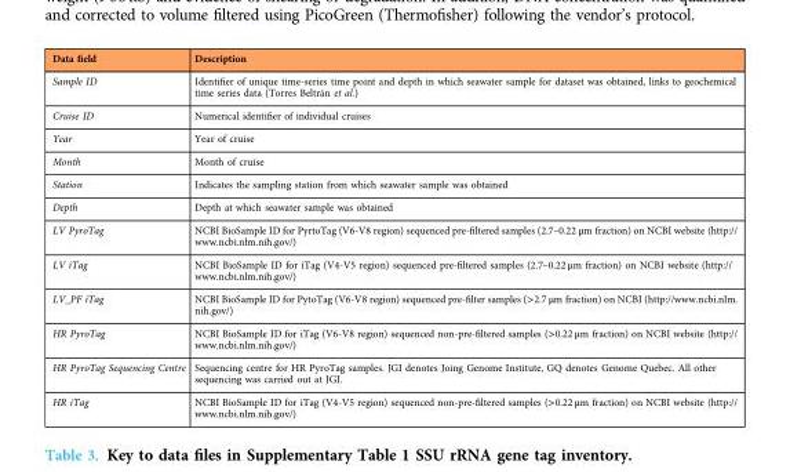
<table><thead><tr><td>Data field</td><td>Description</td></tr></thead><tbody><tr><td>Sample ID</td><td>Identifier of unique time-series time point and depth in which seawater sample for dataset was obtained, links to geochemical time series data (Torres Beltrán et al.)</td></tr><tr><td>Cruise ID</td><td>Numerical identifier of individual cruises</td></tr><tr><td>Year</td><td>Year of cruise</td></tr><tr><td>Month</td><td>Month of cruise</td></tr><tr><td>Station</td><td>Indicates the sampling station from which seawater sample was obtained</td></tr><tr><td>Depth</td><td>Depth at which seawater sample was obtained</td></tr><tr><td>LV PyroTag</td><td>NCBI BioSample ID for PyrtoTag (V6-V8 region) sequenced pre-filtered samples (2.7–0.22 μm fraction) on NCBI website (http:// www.ncbi.nlm.nih.gov/)</td></tr><tr><td>LV iTag</td><td>NCBI BioSample ID for iTag (V4-V5 region) sequenced pre-filtered samples (2.7–0.22 μm fraction) on NCBI website (http:// www.ncbi.nlm.nih.gov/)</td></tr><tr><td>LV_PF iTag</td><td>NCBI BioSample ID for PytoTag (V6-V8 region) sequenced pre-filter samples (&gt;2.7 μm fraction) on NCBI (http://www.ncbi.nlm. nih.gov/)</td></tr><tr><td>HR PyroTag</td><td>NCBI BioSample ID for iTag (V6-V8 region) sequenced non-pre-filtered samples (&gt;0.22 μm fraction) on NCBI website (http:// www.ncbi.nlm.nih.gov/)</td></tr><tr><td>HR PyroTag Sequencing Centre</td><td>Sequencing centre for HR PyroTag samples. JGI denotes Joing Genome Institute, GQ denotes Genome Quebec. All other sequencing was carried out at JGI.</td></tr><tr><td>HR iTag</td><td>NCBI BioSample ID for iTag (V4-V5 region) sequenced non-pre-filtered samples (&gt;0.22 μm fraction) on NCBI website (http:// www.ncbi.nlm.nih.gov/)</td></tr></tbody></table>